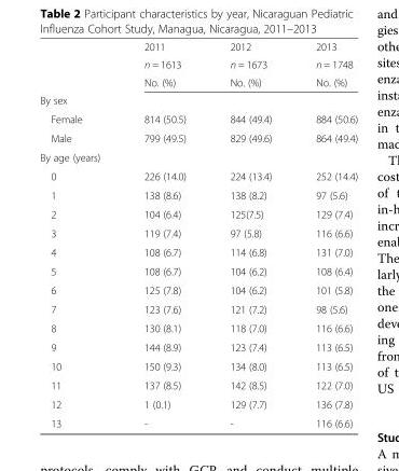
<table><thead><tr><td rowspan="3"></td><td rowspan="3">2011 n = 1613 No. (%)</td><td rowspan="3">2012 n = 1673 No. (%)</td><td rowspan="3">2013 n = 1748 No. (%)</td></tr><tr></tr><tr></tr></thead><tbody><tr><td colspan="4">By sex</td></tr><tr><td>Female</td><td>814 (50.5)</td><td>844 (49.4)</td><td>884 (50.6)</td></tr><tr><td>Male</td><td>799 (49.5)</td><td>829 (49.6)</td><td>864 (49.4)</td></tr><tr><td colspan="4">By age (years)</td></tr><tr><td>0</td><td>226 (14.0)</td><td>224 (13.4)</td><td>252 (14.4)</td></tr><tr><td>1</td><td>138 (8.6)</td><td>138 (8.2)</td><td>97 (5.6)</td></tr><tr><td>2</td><td>104 (6.4)</td><td>125(7.5)</td><td>129 (7.4)</td></tr><tr><td>3</td><td>119 (7.4)</td><td>97 (5.8)</td><td>116 (6.6)</td></tr><tr><td>4</td><td>108 (6.7)</td><td>114 (6.8)</td><td>131 (7.0)</td></tr><tr><td>5</td><td>108 (6.7)</td><td>104 (6.2)</td><td>108 (6.4)</td></tr><tr><td>6</td><td>125 (7.8)</td><td>104 (6.2)</td><td>101 (5.8)</td></tr><tr><td>7</td><td>123 (7.6)</td><td>121 (7.2)</td><td>98 (5.6)</td></tr><tr><td>8</td><td>130 (8.1)</td><td>118 (7.0)</td><td>116 (6.6)</td></tr><tr><td>9</td><td>144 (8.9)</td><td>123 (7.4)</td><td>113 (6.5)</td></tr><tr><td>10</td><td>150 (9.3)</td><td>134 (8.0)</td><td>113 (6.5)</td></tr><tr><td>11</td><td>137 (8.5)</td><td>142 (8.5)</td><td>122 (7.0)</td></tr><tr><td>12</td><td>1 (0.1)</td><td>129 (7.7)</td><td>136 (7.8)</td></tr><tr><td>13</td><td>-</td><td>-</td><td>116 (6.6)</td></tr></tbody></table>